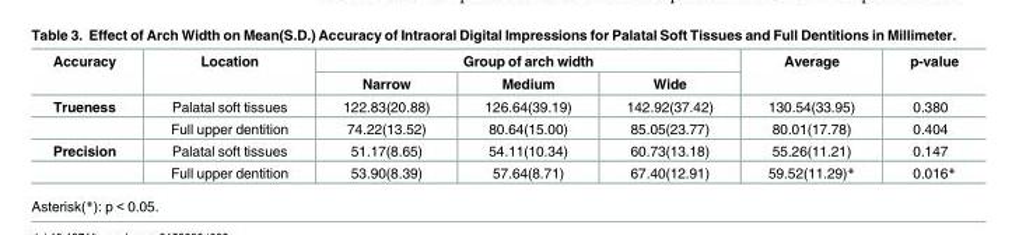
<table><thead><tr><td rowspan="2">Accuracy</td><td rowspan="2">Location</td><td colspan="3">Group of arch width</td><td rowspan="2">Average</td><td rowspan="2">p-value</td></tr><tr><td>Narrow</td><td>Medium</td><td>Wide</td></tr></thead><tbody><tr><td rowspan="2">Trueness</td><td>Palatal soft tissues</td><td>122.83(20.88)</td><td>126.64(39.19)</td><td>142.92(37.42)</td><td>130.54(33.95)</td><td>0.380</td></tr><tr><td>Full upper dentition</td><td>74.22(13.52)</td><td>80.64(15.00)</td><td>85.05(23.77)</td><td>80.01(17.78)</td><td>0.404</td></tr><tr><td rowspan="2">Precision</td><td>Palatal soft tissues</td><td>51.17(8.65)</td><td>54.11(10.34)</td><td>60.73(13.18)</td><td>55.26(11.21)</td><td>0.147</td></tr><tr><td>Full upper dentition</td><td>53.90(8.39)</td><td>57.64(8.71)</td><td>67.40(12.91)</td><td>59.52(11.29)*</td><td>0.016*</td></tr></tbody></table>